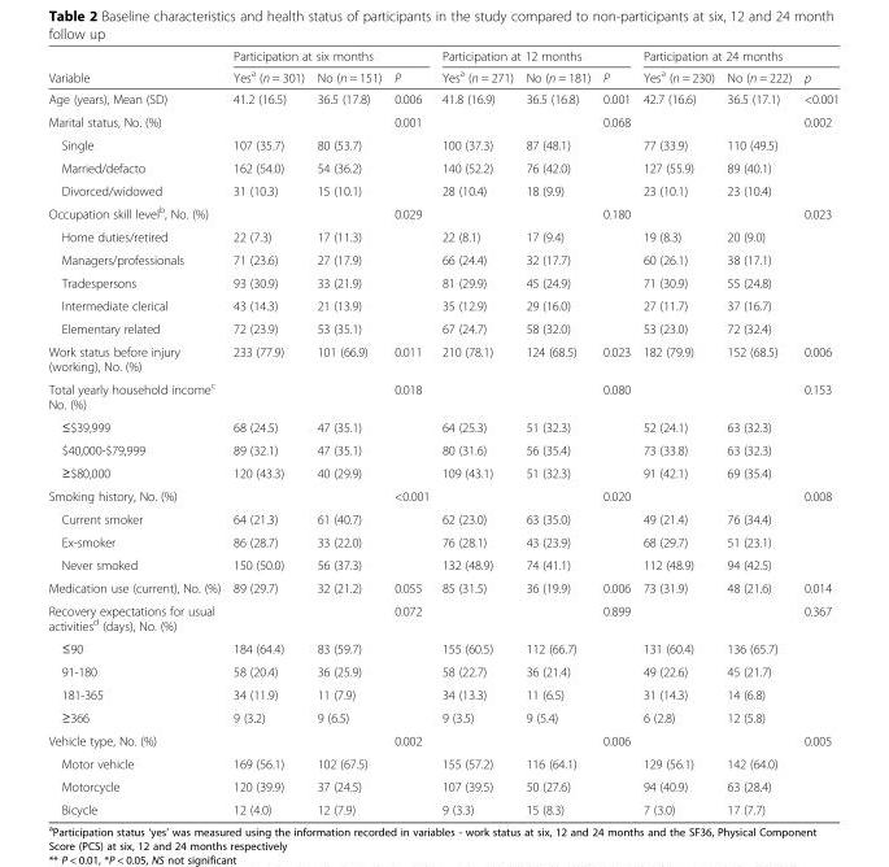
<table><thead><tr><td rowspan="2">Variable</td><td colspan="3">Participation at six months</td><td colspan="3">Participation at 12 months</td><td colspan="3">Participation at 24 months</td></tr><tr><td>Yes<sup>a</sup> (n = 301)</td><td>No (n = 151)</td><td>P</td><td>Yes<sup>a</sup> (n = 271)</td><td>No (n = 181)</td><td>P</td><td>Yes<sup>a</sup> (n = 230)</td><td>No (n = 222)</td><td>p</td></tr></thead><tbody><tr><td>Age (years), Mean (SD)</td><td>41.2 (16.5)</td><td>36.5 (17.8)</td><td>0.006</td><td>41.8 (16.9)</td><td>36.5 (16.8)</td><td>0.001</td><td>42.7 (16.6)</td><td>36.5 (17.1)</td><td>&lt;0.001</td></tr><tr><td>Marital status, No. (%)</td><td></td><td></td><td>0.001</td><td></td><td></td><td>0.068</td><td></td><td></td><td>0.002</td></tr><tr><td>Single</td><td>107 (35.7)</td><td>80 (53.7)</td><td></td><td>100 (37.3)</td><td>87 (48.1)</td><td></td><td>77 (33.9)</td><td>110 (49.5)</td><td></td></tr><tr><td>Married/defacto</td><td>162 (54.0)</td><td>54 (36.2)</td><td></td><td>140 (52.2)</td><td>76 (42.0)</td><td></td><td>127 (55.9)</td><td>89 (40.1)</td><td></td></tr><tr><td>Divorced/widowed</td><td>31 (10.3)</td><td>15 (10.1)</td><td></td><td>28 (10.4)</td><td>18 (9.9)</td><td></td><td>23 (10.1)</td><td>23 (10.4)</td><td></td></tr><tr><td>Occupation skill level<sup>b</sup>, No. (%)</td><td></td><td></td><td>0.029</td><td></td><td></td><td>0.180</td><td></td><td></td><td>0.023</td></tr><tr><td>Home duties/retired</td><td>22 (7.3)</td><td>17 (11.3)</td><td></td><td>22 (8.1)</td><td>17 (9.4)</td><td></td><td>19 (8.3)</td><td>20 (9.0)</td><td></td></tr><tr><td>Managers/professionals</td><td>71 (23.6)</td><td>27 (17.9)</td><td></td><td>66 (24.4)</td><td>32 (17.7)</td><td></td><td>60 (26.1)</td><td>38 (17.1)</td><td></td></tr><tr><td>Tradespersons</td><td>93 (30.9)</td><td>33 (21.9)</td><td></td><td>81 (29.9)</td><td>45 (24.9)</td><td></td><td>71 (30.9)</td><td>55 (24.8)</td><td></td></tr><tr><td>Intermediate clerical</td><td>43 (14.3)</td><td>21 (13.9)</td><td></td><td>35 (12.9)</td><td>29 (16.0)</td><td></td><td>27 (11.7)</td><td>37 (16.7)</td><td></td></tr><tr><td>Elementary related</td><td>72 (23.9)</td><td>53 (35.1)</td><td></td><td>67 (24.7)</td><td>58 (32.0)</td><td></td><td>53 (23.0)</td><td>72 (32.4)</td><td></td></tr><tr><td>Work status before injury (working), No. (%)</td><td>233 (77.9)</td><td>101 (66.9)</td><td>0.011</td><td>210 (78.1)</td><td>124 (68.5)</td><td>0.023</td><td>182 (79.9)</td><td>152 (68.5)</td><td>0.006</td></tr><tr><td>Total yearly household income<sup>c</sup> No. (%)</td><td></td><td></td><td>0.018</td><td></td><td></td><td>0.080</td><td></td><td></td><td>0.153</td></tr><tr><td>≤$39,999</td><td>68 (24.5)</td><td>47 (35.1)</td><td></td><td>64 (25.3)</td><td>51 (32.3)</td><td></td><td>52 (24.1)</td><td>63 (32.3)</td><td></td></tr><tr><td>$40,000-$79,999</td><td>89 (32.1)</td><td>47 (35.1)</td><td></td><td>80 (31.6)</td><td>56 (35.4)</td><td></td><td>73 (33.8)</td><td>63 (32.3)</td><td></td></tr><tr><td>≥$80,000</td><td>120 (43.3)</td><td>40 (29.9)</td><td></td><td>109 (43.1)</td><td>51 (32.3)</td><td></td><td>91 (42.1)</td><td>69 (35.4)</td><td></td></tr><tr><td>Smoking history, No. (%)</td><td></td><td></td><td>&lt;0.001</td><td></td><td></td><td>0.020</td><td></td><td></td><td>0.008</td></tr><tr><td>Current smoker</td><td>64 (21.3)</td><td>61 (40.7)</td><td></td><td>62 (23.0)</td><td>63 (35.0)</td><td></td><td>49 (21.4)</td><td>76 (34.4)</td><td></td></tr><tr><td>Ex-smoker</td><td>86 (28.7)</td><td>33 (22.0)</td><td></td><td>76 (28.1)</td><td>43 (23.9)</td><td></td><td>68 (29.7)</td><td>51 (23.1)</td><td></td></tr><tr><td>Never smoked</td><td>150 (50.0)</td><td>56 (37.3)</td><td></td><td>132 (48.9)</td><td>74 (41.1)</td><td></td><td>112 (48.9)</td><td>94 (42.5)</td><td></td></tr><tr><td>Medication use (current), No. (%)</td><td>89 (29.7)</td><td>32 (21.2)</td><td>0.055</td><td>85 (31.5)</td><td>36 (19.9)</td><td>0.006</td><td>73 (31.9)</td><td>48 (21.6)</td><td>0.014</td></tr><tr><td>Recovery expectations for usual activities<sup>d</sup> (days), No. (%)</td><td></td><td></td><td>0.072</td><td></td><td></td><td>0.899</td><td></td><td></td><td>0.367</td></tr><tr><td>≤90</td><td>184 (64.4)</td><td>83 (59.7)</td><td></td><td>155 (60.5)</td><td>112 (66.7)</td><td></td><td>131 (60.4)</td><td>136 (65.7)</td><td></td></tr><tr><td>91-180</td><td>58 (20.4)</td><td>36 (25.9)</td><td></td><td>58 (22.7)</td><td>36 (21.4)</td><td></td><td>49 (22.6)</td><td>45 (21.7)</td><td></td></tr><tr><td>181-365</td><td>34 (11.9)</td><td>11 (7.9)</td><td></td><td>34 (13.3)</td><td>11 (6.5)</td><td></td><td>31 (14.3)</td><td>14 (6.8)</td><td></td></tr><tr><td>≥366</td><td>9 (3.2)</td><td>9 (6.5)</td><td></td><td>9 (3.5)</td><td>9 (5.4)</td><td></td><td>6 (2.8)</td><td>12 (5.8)</td><td></td></tr><tr><td>Vehicle type, No. (%)</td><td></td><td></td><td>0.002</td><td></td><td></td><td>0.006</td><td></td><td></td><td>0.005</td></tr><tr><td>Motor vehicle</td><td>169 (56.1)</td><td>102 (67.5)</td><td></td><td>155 (57.2)</td><td>116 (64.1)</td><td></td><td>129 (56.1)</td><td>142 (64.0)</td><td></td></tr><tr><td>Motorcycle</td><td>120 (39.9)</td><td>37 (24.5)</td><td></td><td>107 (39.5)</td><td>50 (27.6)</td><td></td><td>94 (40.9)</td><td>63 (28.4)</td><td></td></tr><tr><td>Bicycle</td><td>12 (4.0)</td><td>12 (7.9)</td><td></td><td>9 (3.3)</td><td>15 (8.3)</td><td></td><td>7 (3.0)</td><td>17 (7.7)</td><td></td></tr></tbody></table>